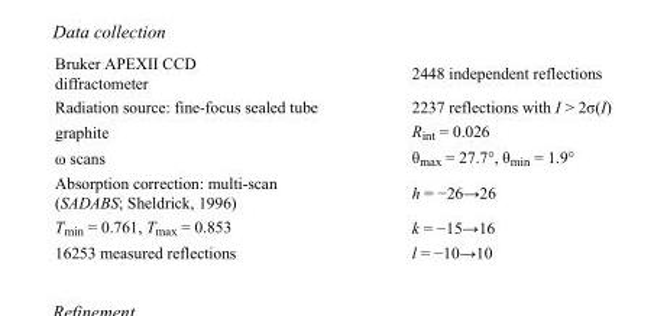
<table><tbody><tr><td>Bruker APEXII CCD diffractometer</td><td>2448 independent reflections</td></tr><tr><td>Radiation source: fine-focus sealed tube</td><td>2237 reflections with I &gt; 2σ(I)</td></tr><tr><td>graphite</td><td>R<sub>int</sub> = 0.026</td></tr><tr><td>ω scans</td><td>θ<sub>max</sub> = 27.7°, θ<sub>min</sub> = 1.9°</td></tr><tr><td>Absorption correction: multi-scan (SADABS; Sheldrick, 1996)</td><td>h = −26→26</td></tr><tr><td>T<sub>min</sub> = 0.761, T<sub>max</sub> = 0.853</td><td>k = −15→16</td></tr><tr><td>16253 measured reflections</td><td>l = −10→10</td></tr></tbody></table>